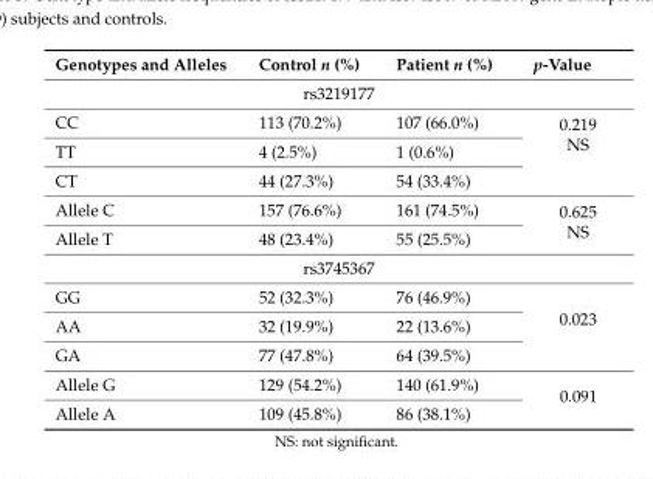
<table><thead><tr><td>Genotypes and Alleles</td><td>Control n (%)</td><td>Patient n (%)</td><td>p-Value</td></tr></thead><tbody><tr><td colspan="4">rs3219177</td></tr><tr><td>CC</td><td>113 (70.2%)</td><td>107 (66.0%)</td><td rowspan="3">0.219 NS</td></tr><tr><td>TT</td><td>4 (2.5%)</td><td>1 (0.6%)</td></tr><tr><td>CT</td><td>44 (27.3%)</td><td>54 (33.4%)</td></tr><tr><td>Allele C</td><td>157 (76.6%)</td><td>161 (74.5%)</td><td rowspan="2">0.625 NS</td></tr><tr><td>Allele T</td><td>48 (23.4%)</td><td>55 (25.5%)</td></tr><tr><td colspan="4">rs3745367</td></tr><tr><td>GG</td><td>52 (32.3%)</td><td>76 (46.9%)</td><td rowspan="3">0.023</td></tr><tr><td>AA</td><td>32 (19.9%)</td><td>22 (13.6%)</td></tr><tr><td>GA</td><td>77 (47.8%)</td><td>64 (39.5%)</td></tr><tr><td>Allele G</td><td>129 (54.2%)</td><td>140 (61.9%)</td><td rowspan="2">0.091</td></tr><tr><td>Allele A</td><td>109 (45.8%)</td><td>86 (38.1%)</td></tr></tbody></table>